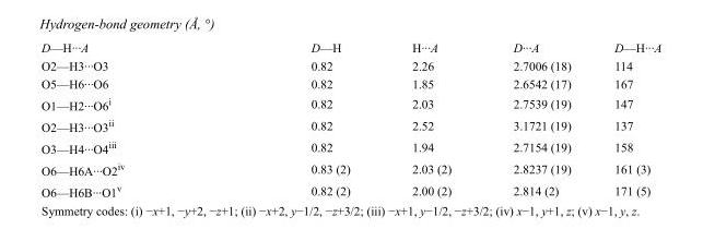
<table><tbody><tr><td>D—H···A</td><td>D—H</td><td>H···A</td><td>D···A</td><td>D—H···A</td></tr><tr><td>O2—H3···O3</td><td>0.82</td><td>2.26</td><td>2.7006 (18)</td><td>114</td></tr><tr><td>O5—H6···O6</td><td>0.82</td><td>1.85</td><td>2.6542 (17)</td><td>167</td></tr><tr><td>O1—H2···O6<sup>i</sup></td><td>0.82</td><td>2.03</td><td>2.7539 (19)</td><td>147</td></tr><tr><td>O2—H3···O3<sup>ii</sup></td><td>0.82</td><td>2.52</td><td>3.1721 (19)</td><td>137</td></tr><tr><td>O3—H4···O4<sup>iii</sup></td><td>0.82</td><td>1.94</td><td>2.7154 (19)</td><td>158</td></tr><tr><td>O6—H6A···O2<sup>iv</sup></td><td>0.83 (2)</td><td>2.03 (2)</td><td>2.8237 (19)</td><td>161 (3)</td></tr><tr><td>O6—H6B···O1<sup>v</sup></td><td>0.82 (2)</td><td>2.00 (2)</td><td>2.814 (2)</td><td>171 (5)</td></tr></tbody></table>